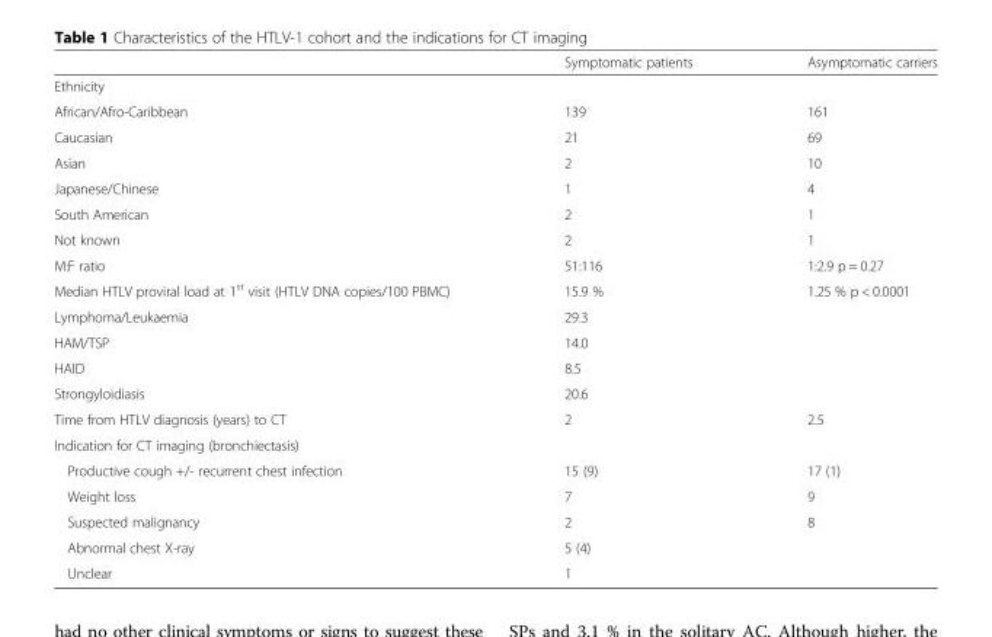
<table><thead><tr><td></td><td>Symptomatic patients</td><td>Asymptomatic carriers</td></tr></thead><tbody><tr><td colspan="3">Ethnicity</td></tr><tr><td>African/Afro-Caribbean</td><td>139</td><td>161</td></tr><tr><td>Caucasian</td><td>21</td><td>69</td></tr><tr><td>Asian</td><td>2</td><td>10</td></tr><tr><td>Japanese/Chinese</td><td>1</td><td>4</td></tr><tr><td>South American</td><td>2</td><td>1</td></tr><tr><td>Not known</td><td>2</td><td>1</td></tr><tr><td>M:F ratio</td><td>51:116</td><td>1:2.9 p = 0.27</td></tr><tr><td>Median HTLV proviral load at 1<sup>st</sup> visit (HTLV DNA copies/100 PBMC)</td><td>15.9 %</td><td rowspan="5">1.25 % p &lt; 0.0001</td></tr><tr><td>Lymphoma/Leukaemia</td><td>29.3</td></tr><tr><td>HAM/TSP</td><td>14.0</td></tr><tr><td>HAID</td><td>8.5</td></tr><tr><td>Strongyloidiasis</td><td>20.6</td></tr><tr><td>Time from HTLV diagnosis (years) to CT</td><td>2</td><td>2.5</td></tr><tr><td colspan="3">Indication for CT imaging (bronchiectasis)</td></tr><tr><td>Productive cough +/- recurrent chest infection</td><td>15 (9)</td><td>17 (1)</td></tr><tr><td>Weight loss</td><td>7</td><td>9</td></tr><tr><td>Suspected malignancy</td><td>2</td><td rowspan="3">8</td></tr><tr><td>Abnormal chest X-ray</td><td>5 (4)</td></tr><tr><td>Unclear</td><td>1</td></tr></tbody></table>